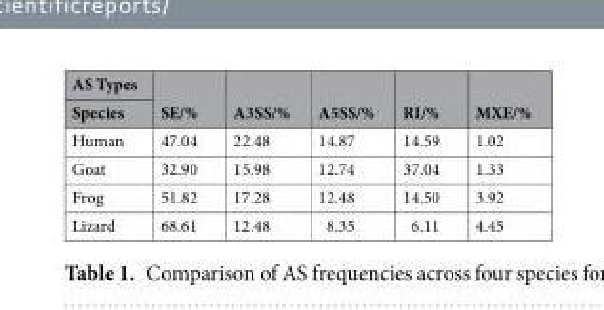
<table><thead><tr><td rowspan="2">AS Types Species</td><td rowspan="2">SE/%</td><td rowspan="2">A3SS/%</td><td rowspan="2">A5SS/%</td><td rowspan="2">RI/%</td><td rowspan="2">MXE/%</td></tr><tr></tr></thead><tbody><tr><td>Human</td><td>47.04</td><td>22.48</td><td>14.87</td><td>14.59</td><td>1.02</td></tr><tr><td>Goat</td><td>32.90</td><td>15.98</td><td>12.74</td><td>37.04</td><td>1.33</td></tr><tr><td>Frog</td><td>51.82</td><td>17.28</td><td>12.48</td><td>14.50</td><td>3.92</td></tr><tr><td>Lizard</td><td>68.61</td><td>12.48</td><td>8.35</td><td>6.11</td><td>4.45</td></tr></tbody></table>